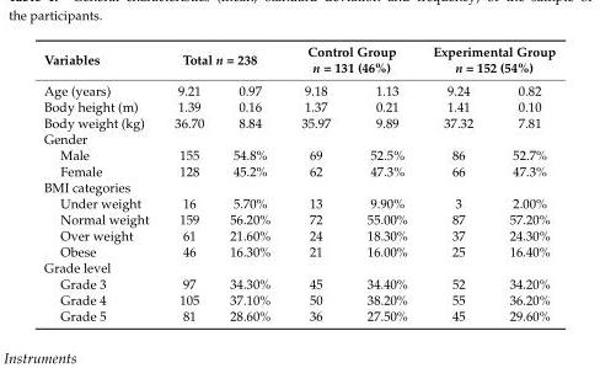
<table><thead><tr><td rowspan="2">Variables Age (years)</td><td colspan="2">Total n = 238</td><td colspan="2">Control Group n = 131 (46%)</td><td colspan="2">Experimental Group n = 152 (54%)</td></tr><tr><td>9.21</td><td>0.97</td><td>9.18</td><td>1.13</td><td>9.24</td><td>0.82</td></tr></thead><tbody><tr><td>Body height (m)</td><td>1.39</td><td>0.16</td><td>1.37</td><td>0.21</td><td>1.41</td><td>0.10</td></tr><tr><td>Body weight (kg)</td><td>36.70</td><td>8.84</td><td>35.97</td><td>9.89</td><td>37.32</td><td>7.81</td></tr><tr><td colspan="7">Gender</td></tr><tr><td>Male</td><td>155</td><td>54.8%</td><td>69</td><td>52.5%</td><td>86</td><td>52.7%</td></tr><tr><td>Female</td><td>128</td><td>45.2%</td><td>62</td><td>47.3%</td><td>66</td><td>47.3%</td></tr><tr><td colspan="7">BMI categories</td></tr><tr><td>Under weight</td><td>16</td><td>5.70%</td><td>13</td><td>9.90%</td><td>3</td><td>2.00%</td></tr><tr><td>Normal weight</td><td>159</td><td>56.20%</td><td>72</td><td>55.00%</td><td>87</td><td>57.20%</td></tr><tr><td>Over weight</td><td>61</td><td>21.60%</td><td>24</td><td>18.30%</td><td>37</td><td>24.30%</td></tr><tr><td>Obese</td><td>46</td><td>16.30%</td><td>21</td><td>16.00%</td><td>25</td><td>16.40%</td></tr><tr><td colspan="7">Grade level</td></tr><tr><td>Grade 3</td><td>97</td><td>34.30%</td><td>45</td><td>34.40%</td><td>52</td><td>34.20%</td></tr><tr><td>Grade 4</td><td>105</td><td>37.10%</td><td>50</td><td>38.20%</td><td>55</td><td>36.20%</td></tr><tr><td>Grade 5</td><td>81</td><td>28.60%</td><td>36</td><td>27.50%</td><td>45</td><td>29.60%</td></tr></tbody></table>